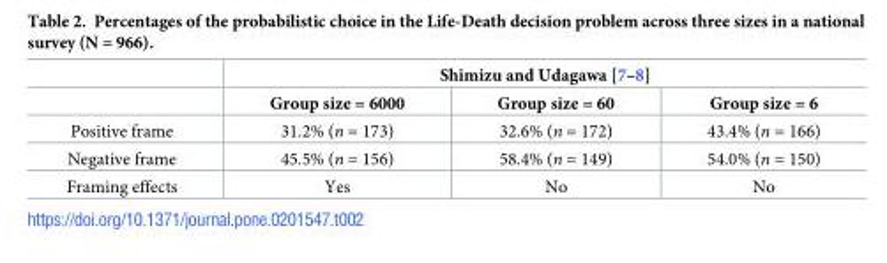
<table><thead><tr><td rowspan="2"></td><td colspan="3">Shimizu and Udagawa [7–8]</td></tr><tr><td>Group size = 6000</td><td>Group size = 60</td><td>Group size = 6</td></tr></thead><tbody><tr><td>Positive frame</td><td>31.2% (n = 173)</td><td>32.6% (n = 172)</td><td>43.4% (n = 166)</td></tr><tr><td>Negative frame</td><td>45.5% (n = 156)</td><td>58.4% (n = 149)</td><td>54.0% (n = 150)</td></tr><tr><td>Framing effects</td><td>Yes</td><td>No</td><td>No</td></tr></tbody></table>